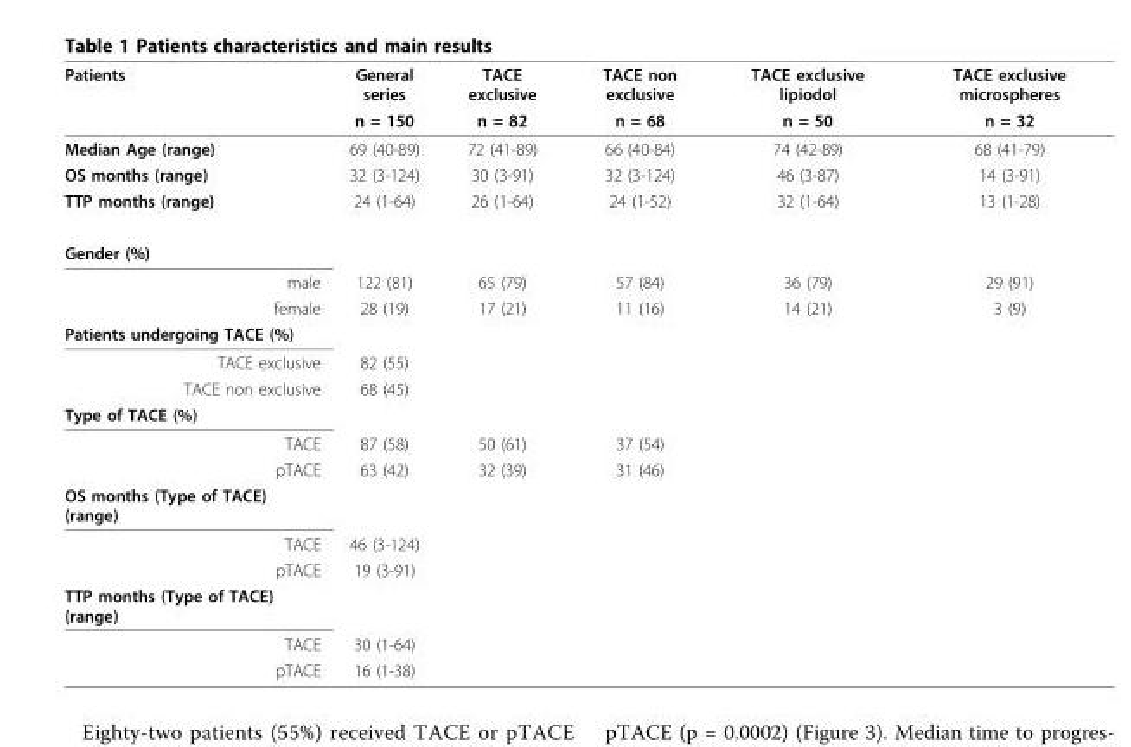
<table><thead><tr><td rowspan="2">Patients</td><td rowspan="2">General series n = 150</td><td rowspan="2">TACE exclusive n = 82</td><td rowspan="2">TACE non exclusive n = 68</td><td rowspan="2">TACE exclusive lipiodol n = 50</td><td rowspan="2">TACE exclusive microspheres n = 32</td></tr><tr></tr></thead><tbody><tr><td>Median Age (range)</td><td>69 (40-89)</td><td>72 (41-89)</td><td>66 (40-84)</td><td>74 (42-89)</td><td>68 (41-79)</td></tr><tr><td>OS months (range)</td><td>32 (3-124)</td><td>30 (3-91)</td><td>32 (3-124)</td><td>46 (3-87)</td><td>14 (3-91)</td></tr><tr><td>TTP months (range)</td><td>24 (1-64)</td><td>26 (1-64)</td><td>24 (1-52)</td><td>32 (1-64)</td><td>13 (1-28)</td></tr><tr><td colspan="6">Gender (%)</td></tr><tr><td>male</td><td>122 (81)</td><td>65 (79)</td><td>57 (84)</td><td>36 (79)</td><td>29 (91)</td></tr><tr><td>female</td><td>28 (19)</td><td>17 (21)</td><td>11 (16)</td><td>14 (21)</td><td>3 (9)</td></tr><tr><td colspan="6">Patients undergoing TACE (%)</td></tr><tr><td>TACE exclusive</td><td>82 (55)</td><td></td><td></td><td></td><td></td></tr><tr><td>TACE non exclusive</td><td>68 (45)</td><td></td><td></td><td></td><td></td></tr><tr><td colspan="6">Type of TACE (%)</td></tr><tr><td>TACE</td><td>87 (58)</td><td>50 (61)</td><td>37 (54)</td><td></td><td></td></tr><tr><td>pTACE</td><td>63 (42)</td><td>32 (39)</td><td>31 (46)</td><td></td><td></td></tr><tr><td colspan="6">OS months (Type of TACE) (range)</td></tr><tr><td>TACE</td><td>46 (3-124)</td><td></td><td></td><td></td><td></td></tr><tr><td>pTACE</td><td>19 (3-91)</td><td></td><td></td><td></td><td></td></tr><tr><td colspan="6">TTP months (Type of TACE) (range)</td></tr><tr><td>TACE</td><td>30 (1-64)</td><td></td><td></td><td></td><td></td></tr><tr><td>pTACE</td><td>16 (1-38)</td><td></td><td></td><td></td><td></td></tr></tbody></table>